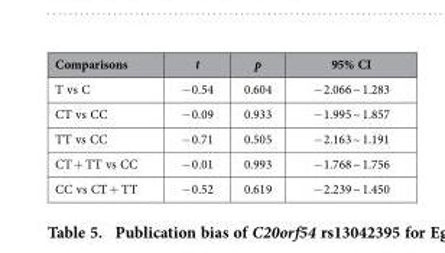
<table><thead><tr><td>Comparisons</td><td>t</td><td>p</td><td>95% CI</td></tr></thead><tbody><tr><td>T vs C</td><td>− 0.54</td><td>0.604</td><td>− 2.066 ~ 1.283</td></tr><tr><td>CT vs CC</td><td>− 0.09</td><td>0.933</td><td>− 1.995 ~ 1.857</td></tr><tr><td>TT vs CC</td><td>− 0.71</td><td>0.505</td><td>− 2.163 ~ 1.191</td></tr><tr><td>CT + TT vs CC</td><td>− 0.01</td><td>0.993</td><td>− 1.768 ~ 1.756</td></tr><tr><td>CC vs CT + TT</td><td>− 0.52</td><td>0.619</td><td>− 2.239 ~ 1.450</td></tr></tbody></table>